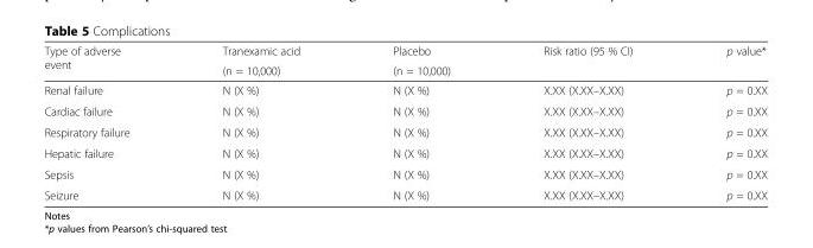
<table><thead><tr><td rowspan="2">Type of adverse event</td><td rowspan="2">Tranexamic acid (n = 10,000)</td><td rowspan="2">Placebo (n = 10,000)</td><td rowspan="2">Risk ratio (95 % CI)</td><td rowspan="2">p value*</td></tr><tr></tr></thead><tbody><tr><td>Renal failure</td><td>N (X %)</td><td>N (X %)</td><td>X.XX (X.XX–X.XX)</td><td>p = 0.XX</td></tr><tr><td>Cardiac failure</td><td>N (X %)</td><td>N (X %)</td><td>X.XX (X.XX–X.XX)</td><td>p = 0.XX</td></tr><tr><td>Respiratory failure</td><td>N (X %)</td><td>N (X %)</td><td>X.XX (X.XX–X.XX)</td><td>p = 0.XX</td></tr><tr><td>Hepatic failure</td><td>N (X %)</td><td>N (X %)</td><td>X.XX (X.XX–X.XX)</td><td>p = 0.XX</td></tr><tr><td>Sepsis</td><td>N (X %)</td><td>N (X %)</td><td>X.XX (X.XX–X.XX)</td><td>p = 0.XX</td></tr><tr><td>Seizure</td><td>N (X %)</td><td>N (X %)</td><td>X.XX (X.XX–X.XX)</td><td>p = 0.XX</td></tr></tbody></table>